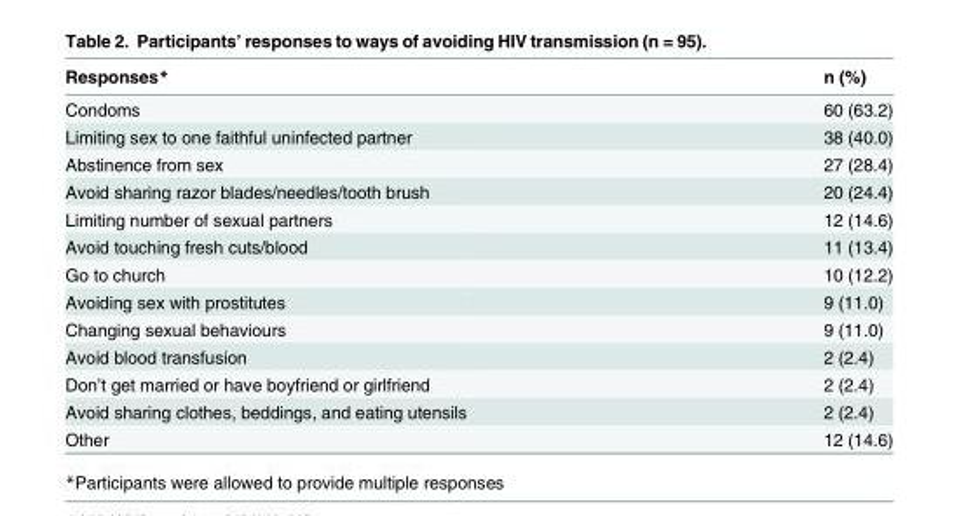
<table><thead><tr><td>Responses*</td><td>n (%)</td></tr></thead><tbody><tr><td>Condoms</td><td>60 (63.2)</td></tr><tr><td>Limiting sex to one faithful uninfected partner</td><td>38 (40.0)</td></tr><tr><td>Abstinence from sex</td><td>27 (28.4)</td></tr><tr><td>Avoid sharing razor blades/needles/tooth brush</td><td>20 (24.4)</td></tr><tr><td>Limiting number of sexual partners</td><td>12 (14.6)</td></tr><tr><td>Avoid touching fresh cuts/blood</td><td>11 (13.4)</td></tr><tr><td>Go to church</td><td>10 (12.2)</td></tr><tr><td>Avoiding sex with prostitutes</td><td>9 (11.0)</td></tr><tr><td>Changing sexual behaviours</td><td>9 (11.0)</td></tr><tr><td>Avoid blood transfusion</td><td>2 (2.4)</td></tr><tr><td>Don’t get married or have boyfriend or girlfriend</td><td>2 (2.4)</td></tr><tr><td>Avoid sharing clothes, beddings, and eating utensils</td><td>2 (2.4)</td></tr><tr><td>Other</td><td>12 (14.6)</td></tr></tbody></table>